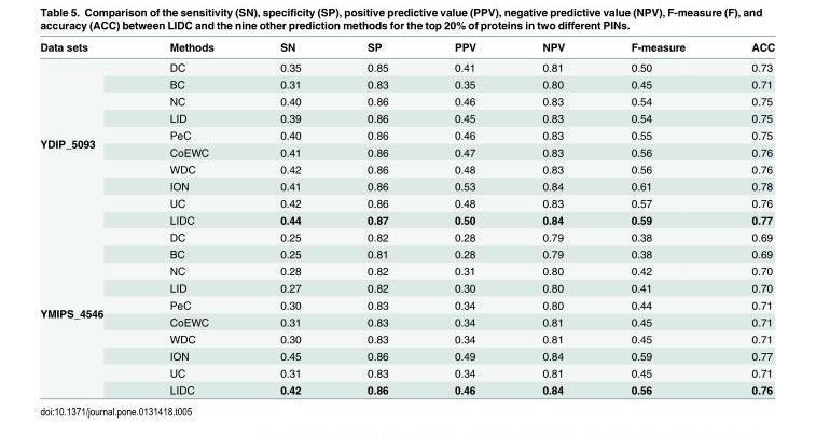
<table><thead><tr><td>Data sets</td><td>Methods</td><td>SN</td><td>SP</td><td>PPV</td><td>NPV</td><td>F-measure</td><td>ACC</td></tr></thead><tbody><tr><td rowspan="10">YDIP_5093</td><td>DC</td><td>0.35</td><td>0.85</td><td>0.41</td><td>0.81</td><td>0.50</td><td>0.73</td></tr><tr><td>BC</td><td>0.31</td><td>0.83</td><td>0.35</td><td>0.80</td><td>0.45</td><td>0.71</td></tr><tr><td>NC</td><td>0.40</td><td>0.86</td><td>0.46</td><td>0.83</td><td>0.54</td><td>0.75</td></tr><tr><td>LID</td><td>0.39</td><td>0.86</td><td>0.45</td><td>0.83</td><td>0.54</td><td>0.75</td></tr><tr><td>PeC</td><td>0.40</td><td>0.86</td><td>0.46</td><td>0.83</td><td>0.55</td><td>0.75</td></tr><tr><td>CoEWC</td><td>0.41</td><td>0.86</td><td>0.47</td><td>0.83</td><td>0.56</td><td>0.76</td></tr><tr><td>WDC</td><td>0.42</td><td>0.86</td><td>0.48</td><td>0.83</td><td>0.56</td><td>0.76</td></tr><tr><td>ION</td><td>0.41</td><td>0.86</td><td>0.53</td><td>0.84</td><td>0.61</td><td>0.78</td></tr><tr><td>UC</td><td>0.42</td><td>0.86</td><td>0.48</td><td>0.83</td><td>0.57</td><td>0.76</td></tr><tr><td>LIDC</td><td>0.44</td><td>0.87</td><td>0.50</td><td>0.84</td><td>0.59</td><td>0.77</td></tr><tr><td rowspan="10">YMIPS_4546</td><td>DC</td><td>0.25</td><td>0.82</td><td>0.28</td><td>0.79</td><td>0.38</td><td>0.69</td></tr><tr><td>BC</td><td>0.25</td><td>0.81</td><td>0.28</td><td>0.79</td><td>0.38</td><td>0.69</td></tr><tr><td>NC</td><td>0.28</td><td>0.82</td><td>0.31</td><td>0.80</td><td>0.42</td><td>0.70</td></tr><tr><td>LID</td><td>0.27</td><td>0.82</td><td>0.30</td><td>0.80</td><td>0.41</td><td>0.70</td></tr><tr><td>PeC</td><td>0.30</td><td>0.83</td><td>0.34</td><td>0.80</td><td>0.44</td><td>0.71</td></tr><tr><td>CoEWC</td><td>0.31</td><td>0.83</td><td>0.34</td><td>0.81</td><td>0.45</td><td>0.71</td></tr><tr><td>WDC</td><td>0.30</td><td>0.83</td><td>0.34</td><td>0.81</td><td>0.45</td><td>0.71</td></tr><tr><td>ION</td><td>0.45</td><td>0.86</td><td>0.49</td><td>0.84</td><td>0.59</td><td>0.77</td></tr><tr><td>UC</td><td>0.31</td><td>0.83</td><td>0.34</td><td>0.81</td><td>0.45</td><td>0.71</td></tr><tr><td>LIDC</td><td>0.42</td><td>0.86</td><td>0.46</td><td>0.84</td><td>0.56</td><td>0.76</td></tr></tbody></table>